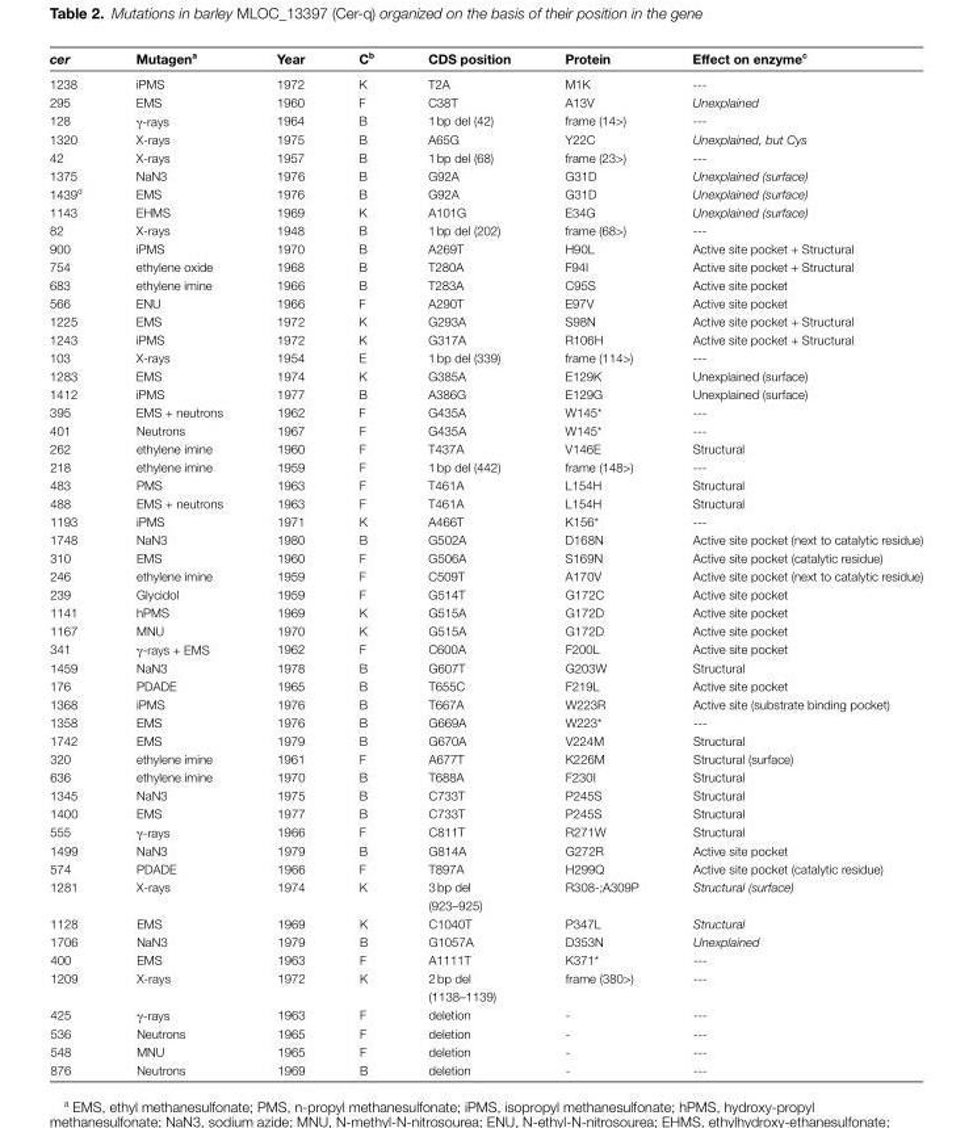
<table><thead><tr><td>cer</td><td>Mutagen<sup>a</sup></td><td>Year</td><td>C<sup>b</sup></td><td>CDS position</td><td>Protein</td><td>Effect on enzyme<sup>c</sup></td></tr></thead><tbody><tr><td>1238</td><td>iPMS</td><td>1972</td><td>K</td><td>T2A</td><td>M1K</td><td>---</td></tr><tr><td>295</td><td>EMS</td><td>1960</td><td>F</td><td>C38T</td><td>A13V</td><td>Unexplained</td></tr><tr><td>128</td><td>γ-rays</td><td>1964</td><td>B</td><td>1 bp del (42)</td><td>frame (14&gt;)</td><td>---</td></tr><tr><td>1320</td><td>X-rays</td><td>1975</td><td>B</td><td>A65G</td><td>Y22C</td><td>Unexplained, but Cys</td></tr><tr><td>42</td><td>X-rays</td><td>1957</td><td>B</td><td>1 bp del (68)</td><td>frame (23&gt;)</td><td>---</td></tr><tr><td>1375</td><td>NaN3</td><td>1976</td><td>B</td><td>G92A</td><td>G31D</td><td>Unexplained (surface)</td></tr><tr><td>1439<sup>d</sup></td><td>EMS</td><td>1976</td><td>B</td><td>G92A</td><td>G31D</td><td>Unexplained (surface)</td></tr><tr><td>1143</td><td>EHMS</td><td>1969</td><td>K</td><td>A101G</td><td>E34G</td><td>Unexplained (surface)</td></tr><tr><td>82</td><td>X-rays</td><td>1948</td><td>B</td><td>1 bp del (202)</td><td>frame (68&gt;)</td><td>---</td></tr><tr><td>900</td><td>iPMS</td><td>1970</td><td>B</td><td>A269T</td><td>H90L</td><td>Active site pocket + Structural</td></tr><tr><td>754</td><td>ethylene oxide</td><td>1968</td><td>B</td><td>T280A</td><td>F94I</td><td>Active site pocket + Structural</td></tr><tr><td>683</td><td>ethylene imine</td><td>1966</td><td>B</td><td>T283A</td><td>C95S</td><td>Active site pocket</td></tr><tr><td>566</td><td>ENU</td><td>1966</td><td>F</td><td>A290T</td><td>E97V</td><td>Active site pocket</td></tr><tr><td>1225</td><td>EMS</td><td>1972</td><td>K</td><td>G293A</td><td>S98N</td><td>Active site pocket + Structural</td></tr><tr><td>1243</td><td>iPMS</td><td>1972</td><td>K</td><td>G317A</td><td>R106H</td><td>Active site pocket + Structural</td></tr><tr><td>103</td><td>X-rays</td><td>1954</td><td>E</td><td>1 bp del (339)</td><td>frame (114&gt;)</td><td>---</td></tr><tr><td>1283</td><td>EMS</td><td>1974</td><td>K</td><td>G385A</td><td>E129K</td><td>Unexplained (surface)</td></tr><tr><td>1412</td><td>iPMS</td><td>1977</td><td>B</td><td>A386G</td><td>E129G</td><td>Unexplained (surface)</td></tr><tr><td>395</td><td>EMS + neutrons</td><td>1962</td><td>F</td><td>G435A</td><td>W145*</td><td>---</td></tr><tr><td>401</td><td>Neutrons</td><td>1967</td><td>F</td><td>G435A</td><td>W145*</td><td>---</td></tr><tr><td>262</td><td>ethylene imine</td><td>1960</td><td>F</td><td>T437A</td><td>V146E</td><td>Structural</td></tr><tr><td>218</td><td>ethylene imine</td><td>1959</td><td>F</td><td>1 bp del (442)</td><td>frame (148&gt;)</td><td>---</td></tr><tr><td>483</td><td>PMS</td><td>1963</td><td>F</td><td>T461A</td><td>L154H</td><td>Structural</td></tr><tr><td>488</td><td>EMS + neutrons</td><td>1963</td><td>F</td><td>T461A</td><td>L154H</td><td>Structural</td></tr><tr><td>1193</td><td>iPMS</td><td>1971</td><td>K</td><td>A466T</td><td>K156*</td><td>---</td></tr><tr><td>1748</td><td>NaN3</td><td>1980</td><td>B</td><td>G502A</td><td>D168N</td><td>Active site pocket (next to catalytic residue)</td></tr><tr><td>310</td><td>EMS</td><td>1960</td><td>F</td><td>G506A</td><td>S169N</td><td>Active site pocket (catalytic residue)</td></tr><tr><td>246</td><td>ethylene imine</td><td>1959</td><td>F</td><td>C509T</td><td>A170V</td><td>Active site pocket (next to catalytic residue)</td></tr><tr><td>239</td><td>Glycidol</td><td>1959</td><td>F</td><td>G514T</td><td>G172C</td><td>Active site pocket</td></tr><tr><td>1141</td><td>hPMS</td><td>1969</td><td>K</td><td>G515A</td><td>G172D</td><td>Active site pocket</td></tr><tr><td>1167</td><td>MNU</td><td>1970</td><td>K</td><td>G515A</td><td>G172D</td><td>Active site pocket</td></tr><tr><td>341</td><td>γ-rays + EMS</td><td>1962</td><td>F</td><td>C600A</td><td>F200L</td><td>Active site pocket</td></tr><tr><td>1459</td><td>NaN3</td><td>1978</td><td>B</td><td>G607T</td><td>G203W</td><td>Structural</td></tr><tr><td>176</td><td>PDADE</td><td>1965</td><td>B</td><td>T655C</td><td>F219L</td><td>Active site pocket</td></tr><tr><td>1368</td><td>iPMS</td><td>1976</td><td>B</td><td>T667A</td><td>W223R</td><td>Active site (substrate binding pocket)</td></tr><tr><td>1358</td><td>EMS</td><td>1976</td><td>B</td><td>G669A</td><td>W223*</td><td>---</td></tr><tr><td>1742</td><td>EMS</td><td>1979</td><td>B</td><td>G670A</td><td>V224M</td><td>Structural</td></tr><tr><td>320</td><td>ethylene imine</td><td>1961</td><td>F</td><td>A677T</td><td>K226M</td><td>Structural (surface)</td></tr><tr><td>636</td><td>ethylene imine</td><td>1970</td><td>B</td><td>T688A</td><td>F230I</td><td>Structural</td></tr><tr><td>1345</td><td>NaN3</td><td>1975</td><td>B</td><td>C733T</td><td>P245S</td><td>Structural</td></tr><tr><td>1400</td><td>EMS</td><td>1977</td><td>B</td><td>C733T</td><td>P245S</td><td>Structural</td></tr><tr><td>555</td><td>γ-rays</td><td>1966</td><td>F</td><td>C811T</td><td>R271W</td><td>Structural</td></tr><tr><td>1499</td><td>NaN3</td><td>1979</td><td>B</td><td>G814A</td><td>G272R</td><td>Active site pocket</td></tr><tr><td>574</td><td>PDADE</td><td>1966</td><td>F</td><td>T897A</td><td>H299Q</td><td>Active site pocket (catalytic residue)</td></tr><tr><td>1281</td><td>X-rays</td><td>1974</td><td>K</td><td>3 bp del (923–925)</td><td>R308-;A309P</td><td>Structural (surface)</td></tr><tr><td>1128</td><td>EMS</td><td>1969</td><td>K</td><td>C1040T</td><td>P347L</td><td>Structural</td></tr><tr><td>1706</td><td>NaN3</td><td>1979</td><td>B</td><td>G1057A</td><td>D353N</td><td>Unexplained</td></tr><tr><td>400</td><td>EMS</td><td>1963</td><td>F</td><td>A1111T</td><td>K371*</td><td>---</td></tr><tr><td>1209</td><td>X-rays</td><td>1972</td><td>K</td><td>2 bp del (1138–1139)</td><td>frame (380&gt;)</td><td>---</td></tr><tr><td>425</td><td>γ-rays</td><td>1963</td><td>F</td><td>deletion</td><td>-</td><td>---</td></tr><tr><td>536</td><td>Neutrons</td><td>1965</td><td>F</td><td>deletion</td><td>-</td><td>---</td></tr><tr><td>548</td><td>MNU</td><td>1965</td><td>F</td><td>deletion</td><td>-</td><td>---</td></tr><tr><td>876</td><td>Neutrons</td><td>1969</td><td>B</td><td>deletion</td><td>-</td><td>---</td></tr></tbody></table>